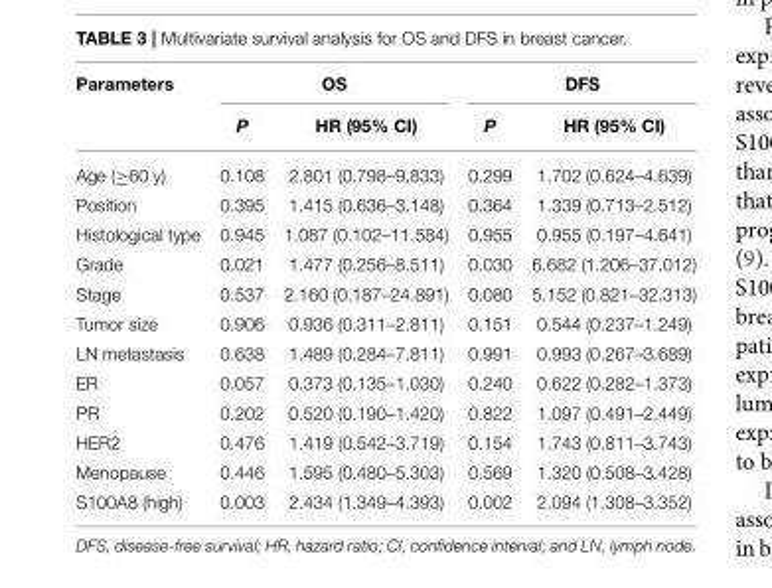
<table><thead><tr><td rowspan="2">Parameters</td><td colspan="2">OS</td><td colspan="2">DFS</td></tr><tr><td>P</td><td>HR (95% CI)</td><td>P</td><td>HR (95% CI)</td></tr></thead><tbody><tr><td>Age (≥60 y)</td><td>0.108</td><td>2.801 (0.798–9.833)</td><td>0.299</td><td>1.702 (0.624–4.639)</td></tr><tr><td>Position</td><td>0.395</td><td>1.415 (0.636–3.148)</td><td>0.364</td><td>1.339 (0.713–2.512)</td></tr><tr><td>Histological type</td><td>0.945</td><td>1.087 (0.102–11.584)</td><td>0.955</td><td>0.955 (0.197–4.641)</td></tr><tr><td>Grade</td><td>0.021</td><td>1.477 (0.256–8.511)</td><td>0.030</td><td>6.682 (1.206–37.012)</td></tr><tr><td>Stage</td><td>0.537</td><td>2.160 (0.187–24.891)</td><td>0.080</td><td>5.152 (0.821–32.313)</td></tr><tr><td>Tumor size</td><td>0.906</td><td>0.936 (0.311–2.811)</td><td>0.151</td><td>0.544 (0.237–1.249)</td></tr><tr><td>LN metastasis</td><td>0.638</td><td>1.489 (0.284–7.811)</td><td>0.991</td><td>0.993 (0.267–3.689)</td></tr><tr><td>ER</td><td>0.057</td><td>0.373 (0.135–1.030)</td><td>0.240</td><td>0.622 (0.282–1.373)</td></tr><tr><td>PR</td><td>0.202</td><td>0.520 (0.190–1.420)</td><td>0.822</td><td>1.097 (0.491–2.449)</td></tr><tr><td>HER2</td><td>0.476</td><td>1.419 (0.542–3.719)</td><td>0.154</td><td>1.743 (0.811–3.743)</td></tr><tr><td>Menopause</td><td>0.446</td><td>1.595 (0.480–5.303)</td><td>0.569</td><td>1.320 (0.508–3.428)</td></tr><tr><td>S100A8 (high)</td><td>0.003</td><td>2.434 (1.349–4.393)</td><td>0.002</td><td>2.094 (1.308–3.352)</td></tr></tbody></table>